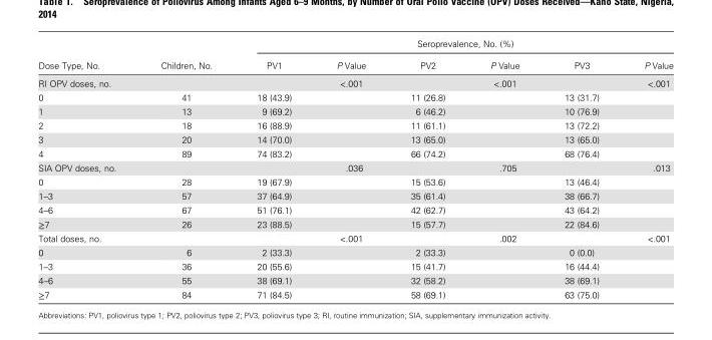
<table><thead><tr><td rowspan="2">Dose Type, No.</td><td rowspan="2">Children, No.</td><td colspan="6">Seroprevalence, No. (%)</td></tr><tr><td>PV1</td><td>P Value</td><td>PV2</td><td>P Value</td><td>PV3</td><td>P Value</td></tr></thead><tbody><tr><td>RI OPV doses, no.</td><td></td><td></td><td>&lt;.001</td><td></td><td>&lt;.001</td><td></td><td>&lt;.001</td></tr><tr><td>0</td><td>41</td><td>18 (43.9)</td><td></td><td>11 (26.8)</td><td></td><td>13 (31.7)</td><td></td></tr><tr><td>1</td><td>13</td><td>9 (69.2)</td><td></td><td>6 (46.2)</td><td></td><td>10 (76.9)</td><td></td></tr><tr><td>2</td><td>18</td><td>16 (88.9)</td><td></td><td>11 (61.1)</td><td></td><td>13 (72.2)</td><td></td></tr><tr><td>3</td><td>20</td><td>14 (70.0)</td><td></td><td>13 (65.0)</td><td></td><td>13 (65.0)</td><td></td></tr><tr><td>4</td><td>89</td><td>74 (83.2)</td><td></td><td>66 (74.2)</td><td></td><td>68 (76.4)</td><td></td></tr><tr><td>SIA OPV doses, no.</td><td></td><td></td><td>.036</td><td></td><td>.705</td><td></td><td>.013</td></tr><tr><td>0</td><td>28</td><td>19 (67.9)</td><td></td><td>15 (53.6)</td><td></td><td>13 (46.4)</td><td></td></tr><tr><td>1–3</td><td>57</td><td>37 (64.9)</td><td></td><td>35 (61.4)</td><td></td><td>38 (66.7)</td><td></td></tr><tr><td>4–6</td><td>67</td><td>51 (76.1)</td><td></td><td>42 (62.7)</td><td></td><td>43 (64.2)</td><td></td></tr><tr><td>≥7</td><td>26</td><td>23 (88.5)</td><td></td><td>15 (57.7)</td><td></td><td>22 (84.6)</td><td></td></tr><tr><td>Total doses, no.</td><td></td><td></td><td>&lt;.001</td><td></td><td>.002</td><td></td><td>&lt;.001</td></tr><tr><td>0</td><td>6</td><td>2 (33.3)</td><td></td><td>2 (33.3)</td><td></td><td>0 (0.0)</td><td></td></tr><tr><td>1–3</td><td>36</td><td>20 (55.6)</td><td></td><td>15 (41.7)</td><td></td><td>16 (44.4)</td><td></td></tr><tr><td>4–6</td><td>55</td><td>38 (69.1)</td><td></td><td>32 (58.2)</td><td></td><td>38 (69.1)</td><td></td></tr><tr><td>≥7</td><td>84</td><td>71 (84.5)</td><td></td><td>58 (69.1)</td><td></td><td>63 (75.0)</td><td></td></tr></tbody></table>